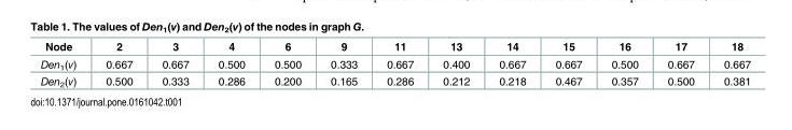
<table><thead><tr><td>Node</td><td>2</td><td>3</td><td>4</td><td>6</td><td>9</td><td>11</td><td>13</td><td>14</td><td>15</td><td>16</td><td>17</td><td>18</td></tr></thead><tbody><tr><td>Den<sub>1</sub>(v)</td><td>0.667</td><td>0.667</td><td>0.500</td><td>0.500</td><td>0.333</td><td>0.667</td><td>0.400</td><td>0.667</td><td>0.667</td><td>0.500</td><td>0.667</td><td>0.667</td></tr><tr><td>Den<sub>2</sub>(v)</td><td>0.500</td><td>0.333</td><td>0.286</td><td>0.200</td><td>0.165</td><td>0.286</td><td>0.212</td><td>0.218</td><td>0.467</td><td>0.357</td><td>0.500</td><td>0.381</td></tr></tbody></table>